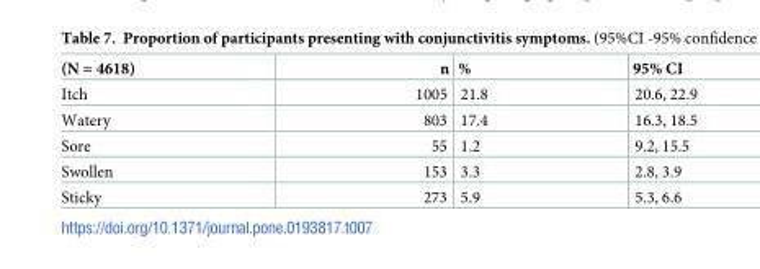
<table><thead><tr><td>(N = 4618)</td><td>n</td><td>%</td><td>95% CI</td></tr></thead><tbody><tr><td>Itch</td><td>1005</td><td>21.8</td><td>20.6, 22.9</td></tr><tr><td>Watery</td><td>803</td><td>17.4</td><td>16.3, 18.5</td></tr><tr><td>Sore</td><td>55</td><td>1.2</td><td>9.2, 15.5</td></tr><tr><td>Swollen</td><td>153</td><td>3.3</td><td>2.8, 3.9</td></tr><tr><td>Sticky</td><td>273</td><td>5.9</td><td>5.3, 6.6</td></tr></tbody></table>